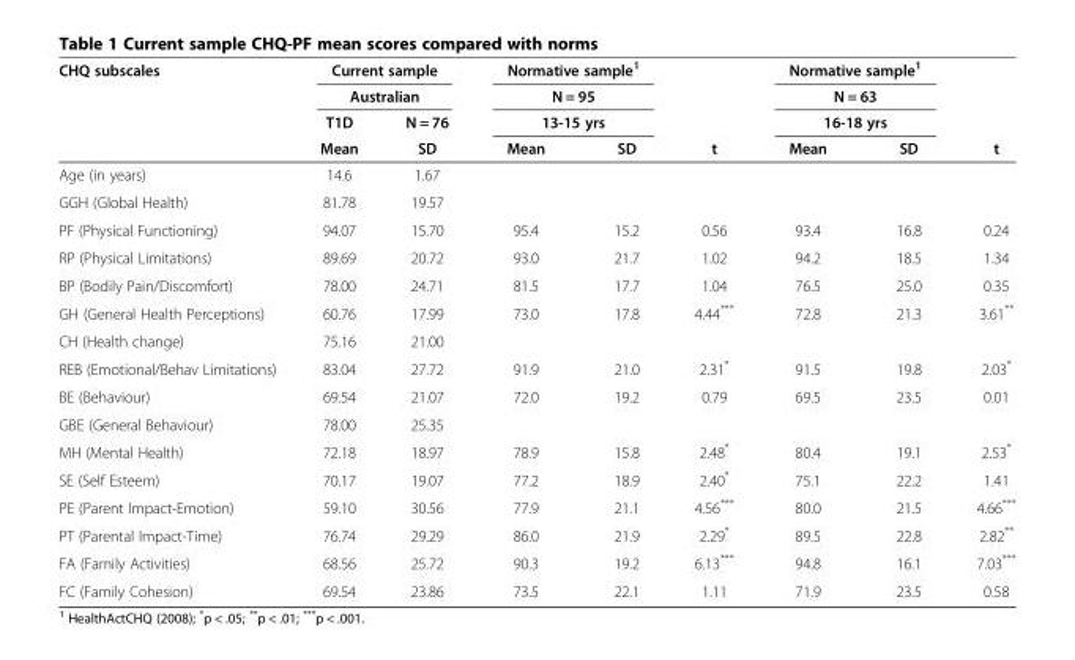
<table><thead><tr><td rowspan="4">CHQ subscales</td><td rowspan="2" colspan="2">Current sample Australian</td><td rowspan="3" colspan="2">Normative sample<sup>1</sup> N = 95 13-15 yrs</td><td rowspan="4">t</td><td rowspan="3" colspan="2">Normative sample<sup>1</sup> N = 63 16-18 yrs</td><td rowspan="4">t</td></tr><tr></tr><tr><td rowspan="2">T1D Mean</td><td rowspan="2">N = 76 SD</td></tr><tr><td>Mean</td><td>SD</td><td>Mean</td><td>SD</td></tr></thead><tbody><tr><td>Age (in years)</td><td>14.6</td><td>1.67</td><td></td><td></td><td></td><td></td><td></td><td></td></tr><tr><td>GGH (Global Health)</td><td>81.78</td><td>19.57</td><td></td><td></td><td></td><td></td><td></td><td></td></tr><tr><td>PF (Physical Functioning)</td><td>94.07</td><td>15.70</td><td>95.4</td><td>15.2</td><td>0.56</td><td>93.4</td><td>16.8</td><td>0.24</td></tr><tr><td>RP (Physical Limitations)</td><td>89.69</td><td>20.72</td><td>93.0</td><td>21.7</td><td>1.02</td><td>94.2</td><td>18.5</td><td>1.34</td></tr><tr><td>BP (Bodily Pain/Discomfort)</td><td>78.00</td><td>24.71</td><td>81.5</td><td>17.7</td><td>1.04</td><td>76.5</td><td>25.0</td><td>0.35</td></tr><tr><td>GH (General Health Perceptions)</td><td>60.76</td><td>17.99</td><td>73.0</td><td>17.8</td><td>4.44***</td><td>72.8</td><td>21.3</td><td>3.61**</td></tr><tr><td>CH (Health change)</td><td>75.16</td><td>21.00</td><td></td><td></td><td></td><td></td><td></td><td></td></tr><tr><td>REB (Emotional/Behav Limitations)</td><td>83.04</td><td>27.72</td><td>91.9</td><td>21.0</td><td>2.31*</td><td>91.5</td><td>19.8</td><td>2.03*</td></tr><tr><td>BE (Behaviour)</td><td>69.54</td><td>21.07</td><td>72.0</td><td>19.2</td><td>0.79</td><td>69.5</td><td>23.5</td><td>0.01</td></tr><tr><td>GBE (General Behaviour)</td><td>78.00</td><td>25.35</td><td></td><td></td><td></td><td></td><td></td><td></td></tr><tr><td>MH (Mental Health)</td><td>72.18</td><td>18.97</td><td>78.9</td><td>15.8</td><td>2.48*</td><td>80.4</td><td>19.1</td><td>2.53*</td></tr><tr><td>SE (Self Esteem)</td><td>70.17</td><td>19.07</td><td>77.2</td><td>18.9</td><td>2.40*</td><td>75.1</td><td>22.2</td><td>1.41</td></tr><tr><td>PE (Parent Impact-Emotion)</td><td>59.10</td><td>30.56</td><td>77.9</td><td>21.1</td><td>4.56***</td><td>80.0</td><td>21.5</td><td>4.66***</td></tr><tr><td>PT (Parental Impact-Time)</td><td>76.74</td><td>29.29</td><td>86.0</td><td>21.9</td><td>2.29*</td><td>89.5</td><td>22.8</td><td>2.82**</td></tr><tr><td>FA (Family Activities)</td><td>68.56</td><td>25.72</td><td>90.3</td><td>19.2</td><td>6.13***</td><td>94.8</td><td>16.1</td><td>7.03***</td></tr><tr><td>FC (Family Cohesion)</td><td>69.54</td><td>23.86</td><td>73.5</td><td>22.1</td><td>1.11</td><td>71.9</td><td>23.5</td><td>0.58</td></tr></tbody></table>